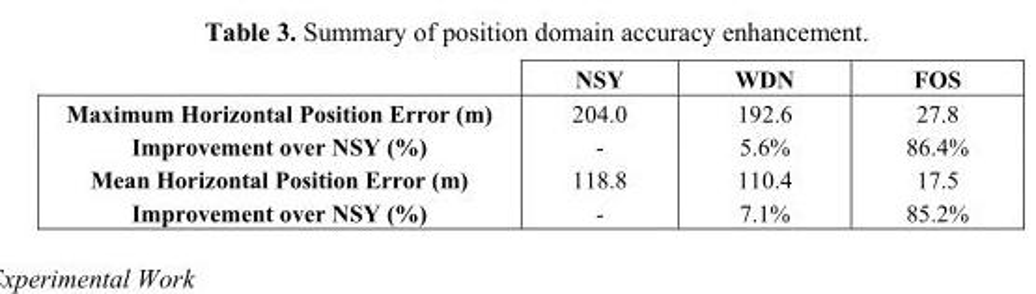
<table><thead><tr><td></td><td>NSY</td><td>WDN</td><td>FOS</td></tr></thead><tbody><tr><td>Maximum Horizontal Position Error (m)</td><td>204.0</td><td>192.6</td><td>27.8</td></tr><tr><td>Improvement over NSY (%)</td><td>-</td><td>5.6%</td><td>86.4%</td></tr><tr><td>Mean Horizontal Position Error (m)</td><td>118.8</td><td>110.4</td><td>17.5</td></tr><tr><td>Improvement over NSY (%)</td><td>-</td><td>7.1%</td><td>85.2%</td></tr></tbody></table>